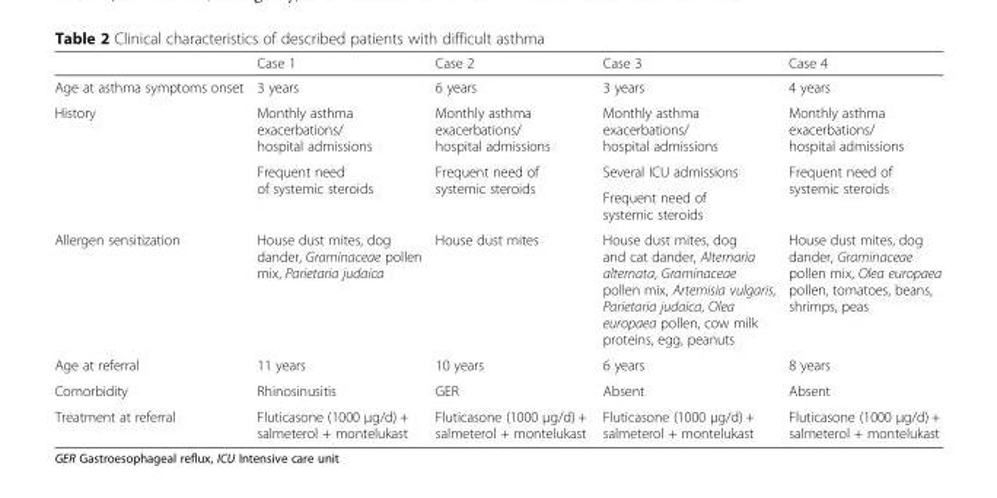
<table><thead><tr><td></td><td>Case 1</td><td>Case 2</td><td>Case 3</td><td>Case 4</td></tr></thead><tbody><tr><td>Age at asthma symptoms onset</td><td>3 years</td><td>6 years</td><td>3 years</td><td>4 years</td></tr><tr><td rowspan="3">History</td><td>Monthly asthma exacerbations/ hospital admissions</td><td>Monthly asthma exacerbations/ hospital admissions</td><td>Monthly asthma exacerbations/ hospital admissions</td><td>Monthly asthma exacerbations/ hospital admissions</td></tr><tr><td rowspan="2">Frequent need of systemic steroids</td><td rowspan="2">Frequent need of systemic steroids</td><td>Several ICU admissions</td><td rowspan="2">Frequent need of systemic steroids</td></tr><tr><td>Frequent need of systemic steroids</td></tr><tr><td>Allergen sensitization</td><td>House dust mites, dog dander, Graminaceae pollen mix, Parietaria judaica</td><td>House dust mites</td><td>House dust mites, dog and cat dander, Alternaria alternata, Graminaceae pollen mix, Artemisia vulgaris, Parietaria judaica, Olea europaea pollen, cow milk proteins, egg, peanuts</td><td>House dust mites, dog dander, Graminaceae pollen mix, Olea europaea pollen, tomatoes, beans, shrimps, peas</td></tr><tr><td>Age at referral</td><td>11 years</td><td>10 years</td><td>6 years</td><td>8 years</td></tr><tr><td>Comorbidity</td><td>Rhinosinusitis</td><td>GER</td><td>Absent</td><td>Absent</td></tr><tr><td>Treatment at referral</td><td>Fluticasone (1000 μg/d) + salmeterol + montelukast</td><td>Fluticasone (1000 μg/d) + salmeterol + montelukast</td><td>Fluticasone (1000 μg/d) + salmeterol + montelukast</td><td>Fluticasone (1000 μg/d) + salmeterol + montelukast</td></tr></tbody></table>